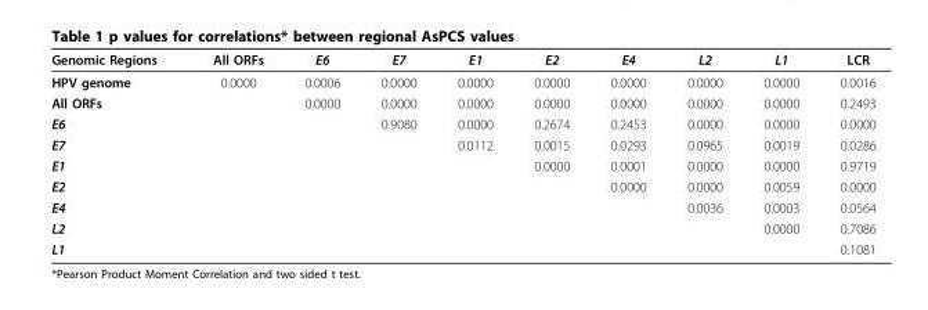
<table><thead><tr><td>Genomic Regions</td><td>All ORFs</td><td>E6</td><td>E7</td><td>E1</td><td>E2</td><td>E4</td><td>L2</td><td>L1</td><td>LCR</td></tr></thead><tbody><tr><td>HPV genome</td><td>0.0000</td><td>0.0006</td><td>0.0000</td><td>0.0000</td><td>0.0000</td><td>0.0000</td><td>0.0000</td><td>0.0000</td><td>0.0016</td></tr><tr><td>All ORFs</td><td></td><td>0.0000</td><td>0.0000</td><td>0.0000</td><td>0.0000</td><td>0.0000</td><td>0.0000</td><td>0.0000</td><td>0.2493</td></tr><tr><td>E6</td><td></td><td></td><td>0.9080</td><td>0.0000</td><td>0.2674</td><td>0.2453</td><td>0.0000</td><td>0.0000</td><td>0.0000</td></tr><tr><td>E7</td><td></td><td></td><td></td><td>0.0112</td><td>0.0015</td><td>0.0293</td><td>0.0965</td><td>0.0019</td><td>0.0286</td></tr><tr><td>E1</td><td></td><td></td><td></td><td></td><td>0.0000</td><td>0.0001</td><td>0.0000</td><td>0.0000</td><td>0.9719</td></tr><tr><td>E2</td><td></td><td></td><td></td><td></td><td></td><td>0.0000</td><td>0.0000</td><td>0.0059</td><td>0.0000</td></tr><tr><td>E4</td><td></td><td></td><td></td><td></td><td></td><td></td><td>0.0036</td><td>0.0003</td><td>0.0564</td></tr><tr><td>L2</td><td></td><td></td><td></td><td></td><td></td><td></td><td></td><td>0.0000</td><td>0.7086</td></tr><tr><td>L1</td><td></td><td></td><td></td><td></td><td></td><td></td><td></td><td></td><td>0.1081</td></tr></tbody></table>